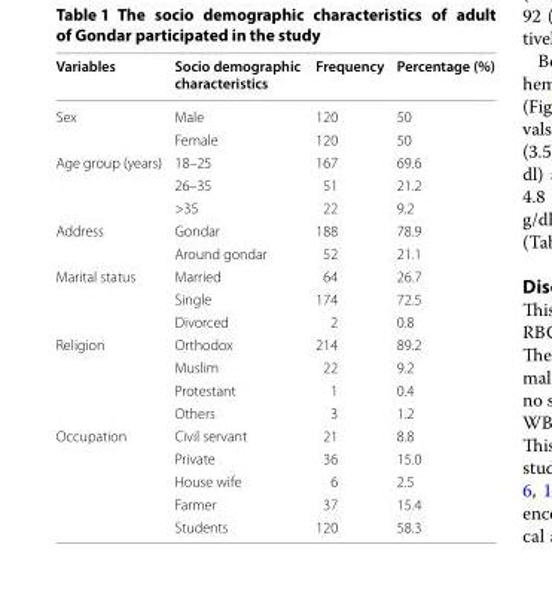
<table><thead><tr><td>Variables</td><td>Socio demographic characteristics</td><td>Frequency</td><td>Percentage (%)</td></tr></thead><tbody><tr><td rowspan="2">Sex</td><td>Male</td><td>120</td><td>50</td></tr><tr><td>Female</td><td>120</td><td>50</td></tr><tr><td rowspan="3">Age group (years)</td><td>18–25</td><td>167</td><td>69.6</td></tr><tr><td>26–35</td><td>51</td><td>21.2</td></tr><tr><td>&gt;35</td><td>22</td><td>9.2</td></tr><tr><td rowspan="2">Address</td><td>Gondar</td><td>188</td><td>78.9</td></tr><tr><td>Around gondar</td><td>52</td><td>21.1</td></tr><tr><td rowspan="3">Marital status</td><td>Married</td><td>64</td><td>26.7</td></tr><tr><td>Single</td><td>174</td><td>72.5</td></tr><tr><td>Divorced</td><td>2</td><td>0.8</td></tr><tr><td rowspan="4">Religion</td><td>Orthodox</td><td>214</td><td>89.2</td></tr><tr><td>Muslim</td><td>22</td><td>9.2</td></tr><tr><td>Protestant</td><td>1</td><td>0.4</td></tr><tr><td>Others</td><td>3</td><td>1.2</td></tr><tr><td rowspan="5">Occupation</td><td>Civil servant</td><td>21</td><td>8.8</td></tr><tr><td>Private</td><td>36</td><td>15.0</td></tr><tr><td>House wife</td><td>6</td><td>2.5</td></tr><tr><td>Farmer</td><td>37</td><td>15.4</td></tr><tr><td>Students</td><td>120</td><td>58.3</td></tr></tbody></table>